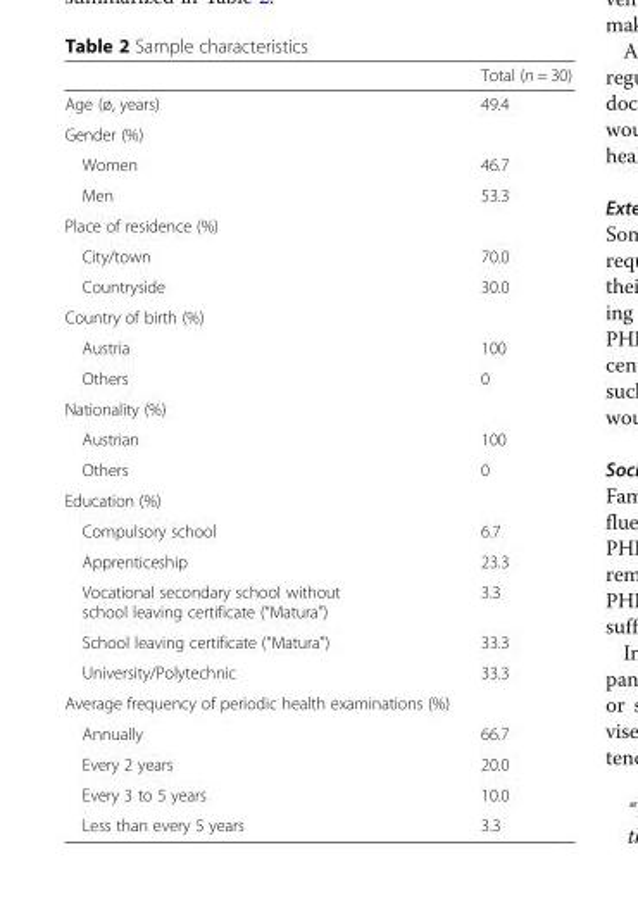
<table><thead><tr><td></td><td>Total (n = 30)</td></tr></thead><tbody><tr><td>Age (ø, years)</td><td>49.4</td></tr><tr><td colspan="2">Gender (%)</td></tr><tr><td>Women</td><td>46.7</td></tr><tr><td>Men</td><td>53.3</td></tr><tr><td colspan="2">Place of residence (%)</td></tr><tr><td>City/town</td><td>70.0</td></tr><tr><td>Countryside</td><td>30.0</td></tr><tr><td colspan="2">Country of birth (%)</td></tr><tr><td>Austria</td><td>100</td></tr><tr><td>Others</td><td>0</td></tr><tr><td colspan="2">Nationality (%)</td></tr><tr><td>Austrian</td><td>100</td></tr><tr><td>Others</td><td>0</td></tr><tr><td colspan="2">Education (%)</td></tr><tr><td>Compulsory school</td><td>6.7</td></tr><tr><td>Apprenticeship</td><td>23.3</td></tr><tr><td>Vocational secondary school without school leaving certificate (“Matura”)</td><td>3.3</td></tr><tr><td>School leaving certificate (“Matura”)</td><td>33.3</td></tr><tr><td>University/Polytechnic</td><td>33.3</td></tr><tr><td colspan="2">Average frequency of periodic health examinations (%)</td></tr><tr><td>Annually</td><td>66.7</td></tr><tr><td>Every 2 years</td><td>20.0</td></tr><tr><td>Every 3 to 5 years</td><td>10.0</td></tr><tr><td>Less than every 5 years</td><td>3.3</td></tr></tbody></table>